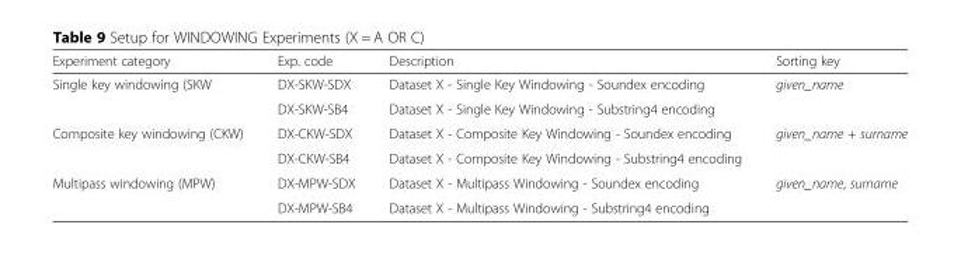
<table><thead><tr><td>Experiment category</td><td>Exp. code</td><td>Description</td><td>Sorting key</td></tr></thead><tbody><tr><td rowspan="2">Single key windowing (SKW</td><td>DX-SKW-SDX</td><td>Dataset X - Single Key Windowing - Soundex encoding</td><td rowspan="2">given_name</td></tr><tr><td>DX-SKW-SB4</td><td>Dataset X - Single Key Windowing - Substring4 encoding</td></tr><tr><td rowspan="2">Composite key windowing (CKW)</td><td>DX-CKW-SDX</td><td>Dataset X - Composite Key Windowing - Soundex encoding</td><td rowspan="2">given_name + surname</td></tr><tr><td>DX-CKW-SB4</td><td>Dataset X - Composite Key Windowing - Substring4 encoding</td></tr><tr><td rowspan="2">Multipass windowing (MPW)</td><td>DX-MPW-SDX</td><td>Dataset X - Multipass Windowing - Soundex encoding</td><td rowspan="2">given_name, surname</td></tr><tr><td>DX-MPW-SB4</td><td>Dataset X - Multipass Windowing - Substring4 encoding</td></tr></tbody></table>